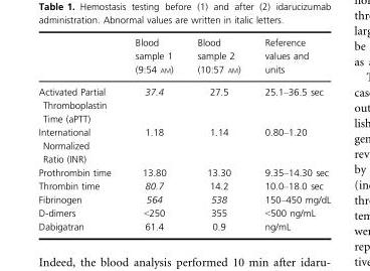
<table><thead><tr><td></td><td>Blood sample 1 (9:54 AM)</td><td>Blood sample 2 (10:57 AM)</td><td>Reference values and units</td></tr></thead><tbody><tr><td>Activated Partial Thromboplastin Time (aPTT)</td><td>37.4</td><td>27.5</td><td>25.1–36.5 sec</td></tr><tr><td>International Normalized Ratio (INR)</td><td>1.18</td><td>1.14</td><td>0.80–1.20</td></tr><tr><td>Prothrombin time</td><td>13.80</td><td>13.30</td><td>9.35–14.30 sec</td></tr><tr><td>Thrombin time</td><td>80.7</td><td>14.2</td><td>10.0–18.0 sec</td></tr><tr><td>Fibrinogen</td><td>564</td><td>538</td><td>150–450 mg/dL</td></tr><tr><td>D-dimers</td><td>&lt;250</td><td>355</td><td>&lt;500 ng/mL</td></tr><tr><td>Dabigatran</td><td>61.4</td><td>0.9</td><td>ng/mL</td></tr></tbody></table>